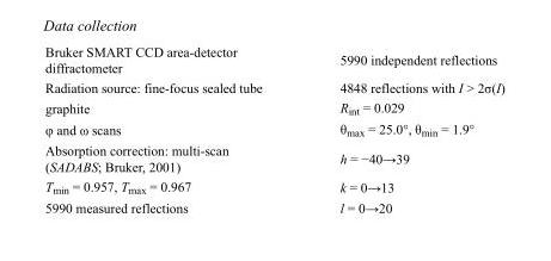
<table><tbody><tr><td>Bruker SMART CCD area-detector diffractometer</td><td>5990 independent reflections</td></tr><tr><td>Radiation source: fine-focus sealed tube</td><td>4848 reflections with I &gt; 2σ(I)</td></tr><tr><td>graphite</td><td>R<sub>int</sub> = 0.029</td></tr><tr><td>φ and ω scans</td><td>θ<sub>max</sub> = 25.0°, θ<sub>min</sub> = 1.9°</td></tr><tr><td>Absorption correction: multi-scan (SADABS; Bruker, 2001)</td><td>h = −40→39</td></tr><tr><td>T<sub>min</sub> = 0.957, T<sub>max</sub> = 0.967</td><td>k = 0→13</td></tr><tr><td>5990 measured reflections</td><td>l = 0→20</td></tr></tbody></table>